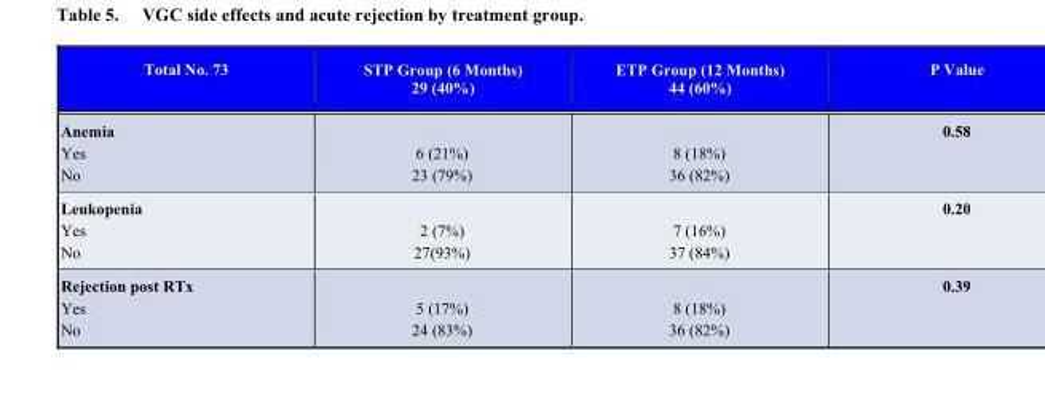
<table><thead><tr><td>Total No. 73</td><td>STP Group (6 Months) 29 (40%)</td><td>ETP Group (12 Months) 44 (60%)</td><td>P Value</td></tr></thead><tbody><tr><td>Anemia Yes No</td><td>6 (21%) 23 (79%)</td><td>8 (18%) 36 (82%)</td><td>0.58</td></tr><tr><td>Leukopenia Yes No</td><td>2 (7%) 27(93%)</td><td>7 (16%) 37 (84%)</td><td>0.20</td></tr><tr><td>Rejection post RTx Yes No</td><td>5 (17%) 24 (83%)</td><td>8 (18%) 36 (82%)</td><td>0.39</td></tr></tbody></table>